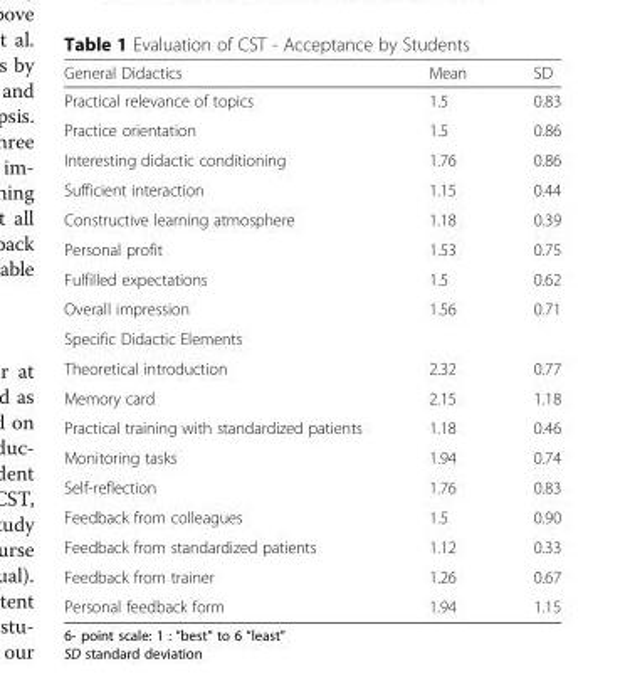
<table><thead><tr><td>General Didactics</td><td>Mean</td><td>SD</td></tr></thead><tbody><tr><td>Practical relevance of topics</td><td>1.5</td><td>0.83</td></tr><tr><td>Practice orientation</td><td>1.5</td><td>0.86</td></tr><tr><td>Interesting didactic conditioning</td><td>1.76</td><td>0.86</td></tr><tr><td>Sufficient interaction</td><td>1.15</td><td>0.44</td></tr><tr><td>Constructive learning atmosphere</td><td>1.18</td><td>0.39</td></tr><tr><td>Personal profit</td><td>1.53</td><td>0.75</td></tr><tr><td>Fulfilled expectations</td><td>1.5</td><td>0.62</td></tr><tr><td>Overall impression</td><td>1.56</td><td>0.71</td></tr><tr><td colspan="3">Specific Didactic Elements</td></tr><tr><td>Theoretical introduction</td><td>2.32</td><td>0.77</td></tr><tr><td>Memory card</td><td>2.15</td><td>1.18</td></tr><tr><td>Practical training with standardized patients</td><td>1.18</td><td>0.46</td></tr><tr><td>Monitoring tasks</td><td>1.94</td><td>0.74</td></tr><tr><td>Self-reflection</td><td>1.76</td><td>0.83</td></tr><tr><td>Feedback from colleagues</td><td>1.5</td><td>0.90</td></tr><tr><td>Feedback from standardized patients</td><td>1.12</td><td>0.33</td></tr><tr><td>Feedback from trainer</td><td>1.26</td><td>0.67</td></tr><tr><td>Personal feedback form</td><td>1.94</td><td>1.15</td></tr></tbody></table>